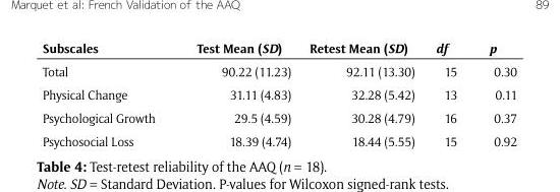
<table><thead><tr><td>Subscales</td><td>Test Mean (SD)</td><td>Retest Mean (SD)</td><td>df</td><td>p</td></tr></thead><tbody><tr><td>Total</td><td>90.22 (11.23)</td><td>92.11 (13.30)</td><td>15</td><td>0.30</td></tr><tr><td>Physical Change</td><td>31.11 (4.83)</td><td>32.28 (5.42)</td><td>13</td><td>0.11</td></tr><tr><td>Psychological Growth</td><td>29.5 (4.59)</td><td>30.28 (4.79)</td><td>16</td><td>0.37</td></tr><tr><td>Psychosocial Loss</td><td>18.39 (4.74)</td><td>18.44 (5.55)</td><td>15</td><td>0.92</td></tr></tbody></table>